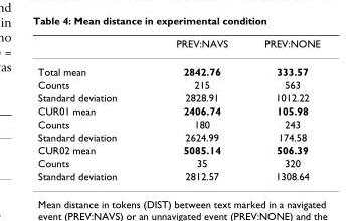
<table><thead><tr><td></td><td>PREV:NAVS</td><td>PREV:NONE</td></tr></thead><tbody><tr><td>Total mean</td><td>2842.76</td><td>333.57</td></tr><tr><td>Counts</td><td>215</td><td>563</td></tr><tr><td>Standard deviation</td><td>2828.91</td><td>1012.22</td></tr><tr><td>CUR01 mean</td><td>2406.74</td><td>105.98</td></tr><tr><td>Counts</td><td>180</td><td>243</td></tr><tr><td>Standard deviation</td><td>2624.99</td><td>174.58</td></tr><tr><td>CUR02 mean</td><td>5085.14</td><td>506.39</td></tr><tr><td>Counts</td><td>35</td><td>320</td></tr><tr><td>Standard deviation</td><td>2812.57</td><td>1308.64</td></tr></tbody></table>